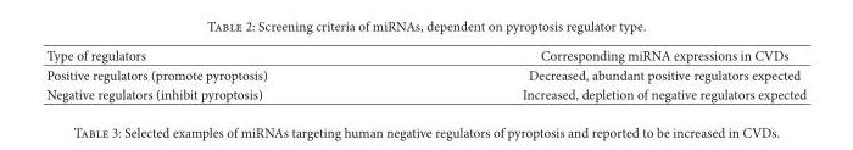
<table><thead><tr><td>Type of regulators</td><td>Corresponding miRNA expressions in CVDs</td></tr></thead><tbody><tr><td>Positive regulators (promote pyroptosis)</td><td>Decreased, abundant positive regulators expected</td></tr><tr><td>Negative regulators (inhibit pyroptosis)</td><td>Increased, depletion of negative regulators expected</td></tr></tbody></table>